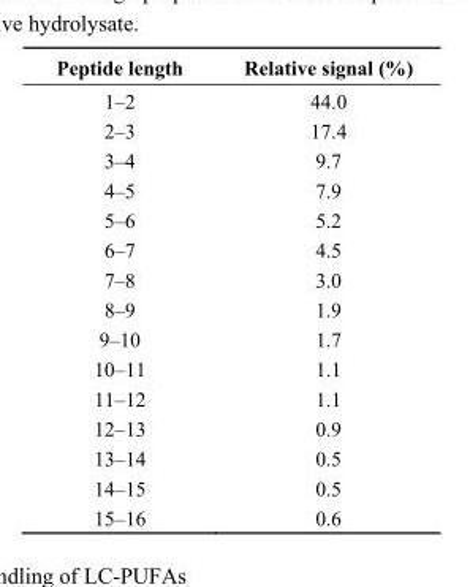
<table><thead><tr><td>Peptide length</td><td>Relative signal (%)</td></tr></thead><tbody><tr><td>1–2</td><td>44.0</td></tr><tr><td>2–3</td><td>17.4</td></tr><tr><td>3–4</td><td>9.7</td></tr><tr><td>4–5</td><td>7.9</td></tr><tr><td>5–6</td><td>5.2</td></tr><tr><td>6–7</td><td>4.5</td></tr><tr><td>7–8</td><td>3.0</td></tr><tr><td>8–9</td><td>1.9</td></tr><tr><td>9–10</td><td>1.7</td></tr><tr><td>10–11</td><td>1.1</td></tr><tr><td>11–12</td><td>1.1</td></tr><tr><td>12–13</td><td>0.9</td></tr><tr><td>13–14</td><td>0.5</td></tr><tr><td>14–15</td><td>0.5</td></tr><tr><td>15–16</td><td>0.6</td></tr></tbody></table>